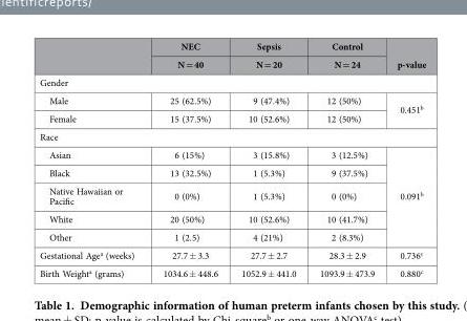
<table><thead><tr><td rowspan="2"></td><td rowspan="2">NEC N = 40</td><td rowspan="2">Sepsis N = 20</td><td rowspan="2">Control N = 24</td><td rowspan="2">p-value</td></tr><tr></tr></thead><tbody><tr><td colspan="5">Gender</td></tr><tr><td>Male</td><td>25 (62.5%)</td><td>9 (47.4%)</td><td>12 (50%)</td><td rowspan="2">0.451<sup>b</sup></td></tr><tr><td>Female</td><td>15 (37.5%)</td><td>10 (52.6%)</td><td>12 (50%)</td></tr><tr><td colspan="5">Race</td></tr><tr><td>Asian</td><td>6 (15%)</td><td>3 (15.8%)</td><td>3 (12.5%)</td><td rowspan="5">0.091<sup>b</sup></td></tr><tr><td>Black</td><td>13 (32.5%)</td><td>1 (5.3%)</td><td>9 (37.5%)</td></tr><tr><td>Native Hawaiian or Pacific</td><td>0 (0%)</td><td>1 (5.3%)</td><td>0 (0%)</td></tr><tr><td>White</td><td>20 (50%)</td><td>10 (52.6%)</td><td>10 (41.7%)</td></tr><tr><td>Other</td><td>1 (2.5)</td><td>4 (21%)</td><td>2 (8.3%)</td></tr><tr><td>Gestational Age<sup>a</sup> (weeks)</td><td>27.7 ± 3.3</td><td>27.7 ± 2.7</td><td>28.3 ± 2.9</td><td>0.736<sup>c</sup></td></tr><tr><td>Birth Weight<sup>a</sup> (grams)</td><td>1034.6 ± 448.6</td><td>1052.9 ± 441.0</td><td>1093.9 ± 473.9</td><td>0.880<sup>c</sup></td></tr></tbody></table>